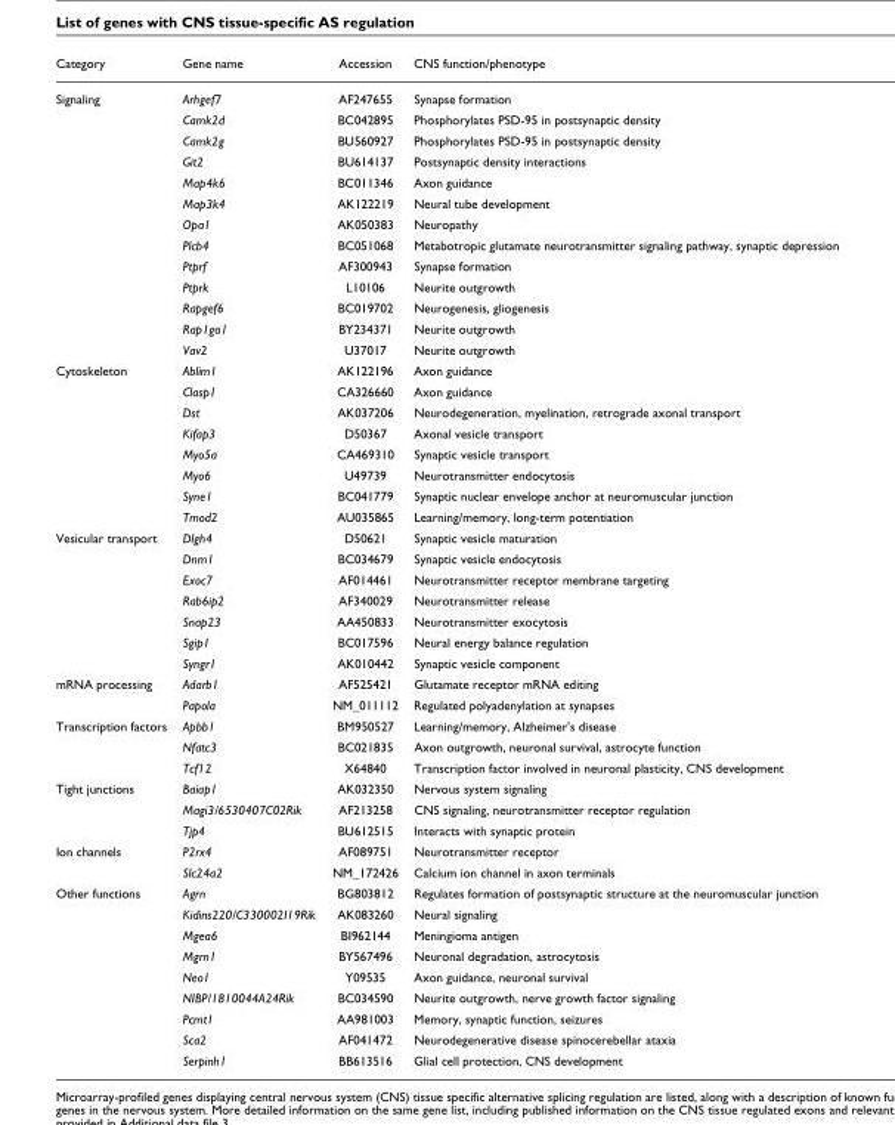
<table><thead><tr><td>Category</td><td>Gene name</td><td>Accession</td><td>CNS function/phenotype</td></tr></thead><tbody><tr><td rowspan="13">Signaling</td><td>Arhgef7</td><td>AF247655</td><td>Synapse formation</td></tr><tr><td>Camk2d</td><td>BC042895</td><td>Phosphorylates PSD-95 in postsynaptic density</td></tr><tr><td>Camk2g</td><td>BU560927</td><td>Phosphorylates PSD-95 in postsynaptic density</td></tr><tr><td>Git2</td><td>BU614137</td><td>Postsynaptic density interactions</td></tr><tr><td>Map4k6</td><td>BC011346</td><td>Axon guidance</td></tr><tr><td>Map3k4</td><td>AK122219</td><td>Neural tube development</td></tr><tr><td>Opa1</td><td>AK050383</td><td>Neuropathy</td></tr><tr><td>Plcb4</td><td>BC051068</td><td>Metabotropic glutamate neurotransmitter signaling pathway, synaptic depression</td></tr><tr><td>Ptprf</td><td>AF300943</td><td>Synapse formation</td></tr><tr><td>Ptprk</td><td>L10106</td><td>Neurite outgrowth</td></tr><tr><td>Rapgef6</td><td>BC019702</td><td>Neurogenesis, gliogenesis</td></tr><tr><td>Rap1ga1</td><td>BY234371</td><td>Neurite outgrowth</td></tr><tr><td>Vav2</td><td>U37017</td><td>Neurite outgrowth</td></tr><tr><td rowspan="8">Cytoskeleton</td><td>Ablim1</td><td>AK122196</td><td>Axon guidance</td></tr><tr><td>Clasp1</td><td>CA326660</td><td>Axon guidance</td></tr><tr><td>Dst</td><td>AK037206</td><td>Neurodegeneration, myelination, retrograde axonal transport</td></tr><tr><td>Kifap3</td><td>D50367</td><td>Axonal vesicle transport</td></tr><tr><td>Myo5a</td><td>CA469310</td><td>Synaptic vesicle transport</td></tr><tr><td>Myo6</td><td>U49739</td><td>Neurotransmitter endocytosis</td></tr><tr><td>Syne1</td><td>BC041779</td><td>Synaptic nuclear envelope anchor at neuromuscular junction</td></tr><tr><td>Tmod2</td><td>AU035865</td><td>Learning/memory, long-term potentiation</td></tr><tr><td rowspan="7">Vesicular transport</td><td>Dlgh4</td><td>D50621</td><td>Synaptic vesicle maturation</td></tr><tr><td>Dnm1</td><td>BC034679</td><td>Synaptic vesicle endocytosis</td></tr><tr><td>Exoc7</td><td>AF014461</td><td>Neurotransmitter receptor membrane targeting</td></tr><tr><td>Rab6ip2</td><td>AF340029</td><td>Neurotransmitter release</td></tr><tr><td>Snap23</td><td>AA450833</td><td>Neurotransmitter exocytosis</td></tr><tr><td>Sgip1</td><td>BC017596</td><td>Neural energy balance regulation</td></tr><tr><td>Syngr1</td><td>AK010442</td><td>Synaptic vesicle component</td></tr><tr><td rowspan="2">mRNA processing</td><td>Adarb1</td><td>AF525421</td><td>Glutamate receptor mRNA editing</td></tr><tr><td>Papola</td><td>NM_011112</td><td>Regulated polyadenylation at synapses</td></tr><tr><td rowspan="3">Transcription factors</td><td>Apbb1</td><td>BM950527</td><td>Learning/memory, Alzheimer&#x27;s disease</td></tr><tr><td>Nfatc3</td><td>BC021835</td><td>Axon outgrowth, neuronal survival, astrocyte function</td></tr><tr><td>Tcf12</td><td>X64840</td><td>Transcription factor involved in neuronal plasticity, CNS development</td></tr><tr><td rowspan="3">Tight junctions</td><td>Baiap1</td><td>AK032350</td><td>Nervous system signaling</td></tr><tr><td>Magi3/6530407C02Rik</td><td>AF213258</td><td>CNS signaling, neurotransmitter receptor regulation</td></tr><tr><td>Tjp4</td><td>BU612515</td><td>Interacts with synaptic protein</td></tr><tr><td rowspan="2">Ion channels</td><td>P2rx4</td><td>AF089751</td><td>Neurotransmitter receptor</td></tr><tr><td>Slc24a2</td><td>NM_172426</td><td>Calcium ion channel in axon terminals</td></tr><tr><td rowspan="9">Other functions</td><td>Agrn</td><td>BG803812</td><td>Regulates formation of postsynaptic structure at the neuromuscular junction</td></tr><tr><td>Kidins220/C330002I19Rik</td><td>AK083260</td><td>Neural signaling</td></tr><tr><td>Mgea6</td><td>BI962144</td><td>Meningioma antigen</td></tr><tr><td>Mgrn1</td><td>BY567496</td><td>Neuronal degradation, astrocytosis</td></tr><tr><td>Neo1</td><td>Y09535</td><td>Axon guidance, neuronal survival</td></tr><tr><td>NIBP/1810044A24Rik</td><td>BC034590</td><td>Neurite outgrowth, nerve growth factor signaling</td></tr><tr><td>Pcmt1</td><td>AA981003</td><td>Memory, synaptic function, seizures</td></tr><tr><td>Sca2</td><td>AF041472</td><td>Neurodegenerative disease spinocerebellar ataxia</td></tr><tr><td>Serpinh1</td><td>BB613516</td><td>Glial cell protection, CNS development</td></tr></tbody></table>